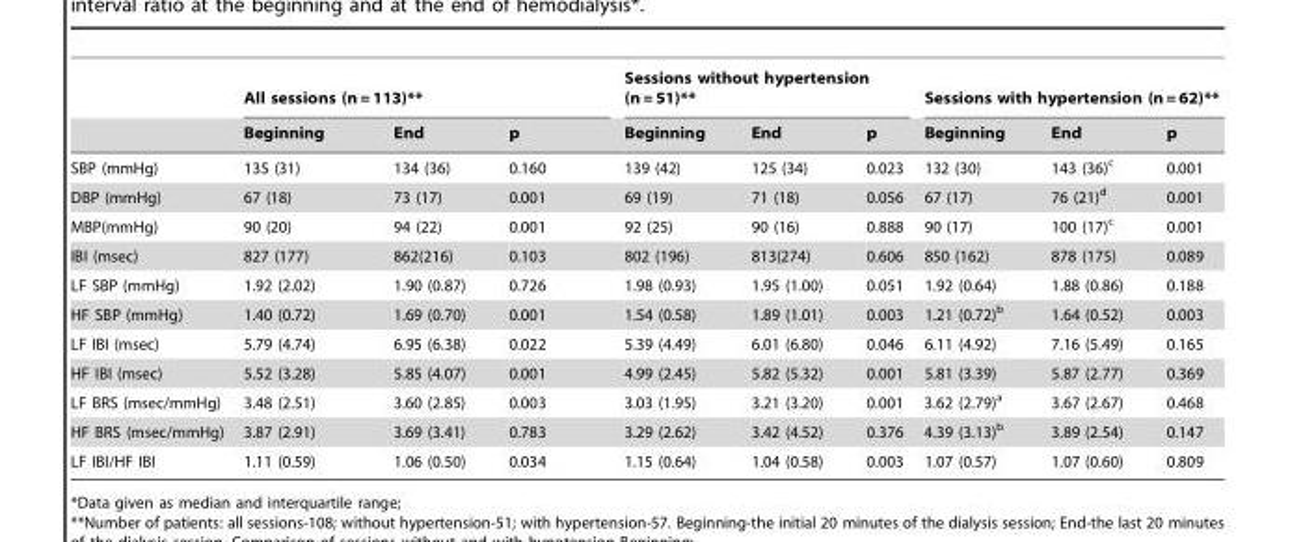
<table><thead><tr><td rowspan="2"></td><td colspan="3">All sessions (n = 113)**</td><td colspan="3">Sessions without hypertension (n = 51)**</td><td colspan="3">Sessions with hypertension (n = 62)**</td></tr><tr><td>Beginning</td><td>End</td><td>p</td><td>Beginning</td><td>End</td><td>p</td><td>Beginning</td><td>End</td><td>p</td></tr></thead><tbody><tr><td>SBP (mmHg)</td><td>135 (31)</td><td>134 (36)</td><td>0.160</td><td>139 (42)</td><td>125 (34)</td><td>0.023</td><td>132 (30)</td><td>143 (36)<sup>c</sup></td><td>0.001</td></tr><tr><td>DBP (mmHg)</td><td>67 (18)</td><td>73 (17)</td><td>0.001</td><td>69 (19)</td><td>71 (18)</td><td>0.056</td><td>67 (17)</td><td>76 (21)<sup>d</sup></td><td>0.001</td></tr><tr><td>MBP(mmHg)</td><td>90 (20)</td><td>94 (22)</td><td>0.001</td><td>92 (25)</td><td>90 (16)</td><td>0.888</td><td>90 (17)</td><td>100 (17)<sup>c</sup></td><td>0.001</td></tr><tr><td>IBI (msec)</td><td>827 (177)</td><td>862(216)</td><td>0.103</td><td>802 (196)</td><td>813(274)</td><td>0.606</td><td>850 (162)</td><td>878 (175)</td><td>0.089</td></tr><tr><td>LF SBP (mmHg)</td><td>1.92 (2.02)</td><td>1.90 (0.87)</td><td>0.726</td><td>1.98 (0.93)</td><td>1.95 (1.00)</td><td>0.051</td><td>1.92 (0.64)</td><td>1.88 (0.86)</td><td>0.188</td></tr><tr><td>HF SBP (mmHg)</td><td>1.40 (0.72)</td><td>1.69 (0.70)</td><td>0.001</td><td>1.54 (0.58)</td><td>1.89 (1.01)</td><td>0.003</td><td>1.21 (0.72)<sup>b</sup></td><td>1.64 (0.52)</td><td>0.003</td></tr><tr><td>LF IBI (msec)</td><td>5.79 (4.74)</td><td>6.95 (6.38)</td><td>0.022</td><td>5.39 (4.49)</td><td>6.01 (6.80)</td><td>0.046</td><td>6.11 (4.92)</td><td>7.16 (5.49)</td><td>0.165</td></tr><tr><td>HF IBI (msec)</td><td>5.52 (3.28)</td><td>5.85 (4.07)</td><td>0.001</td><td>4.99 (2.45)</td><td>5.82 (5.32)</td><td>0.001</td><td>5.81 (3.39)</td><td>5.87 (2.77)</td><td>0.369</td></tr><tr><td>LF BRS (msec/mmHg)</td><td>3.48 (2.51)</td><td>3.60 (2.85)</td><td>0.003</td><td>3.03 (1.95)</td><td>3.21 (3.20)</td><td>0.001</td><td>3.62 (2.79)<sup>a</sup></td><td>3.67 (2.67)</td><td>0.468</td></tr><tr><td>HF BRS (msec/mmHg)</td><td>3.87 (2.91)</td><td>3.69 (3.41)</td><td>0.783</td><td>3.29 (2.62)</td><td>3.42 (4.52)</td><td>0.376</td><td>4.39 (3.13)<sup>b</sup></td><td>3.89 (2.54)</td><td>0.147</td></tr><tr><td>LF IBI/HF IBI</td><td>1.11 (0.59)</td><td>1.06 (0.50)</td><td>0.034</td><td>1.15 (0.64)</td><td>1.04 (0.58)</td><td>0.003</td><td>1.07 (0.57)</td><td>1.07 (0.60)</td><td>0.809</td></tr></tbody></table>